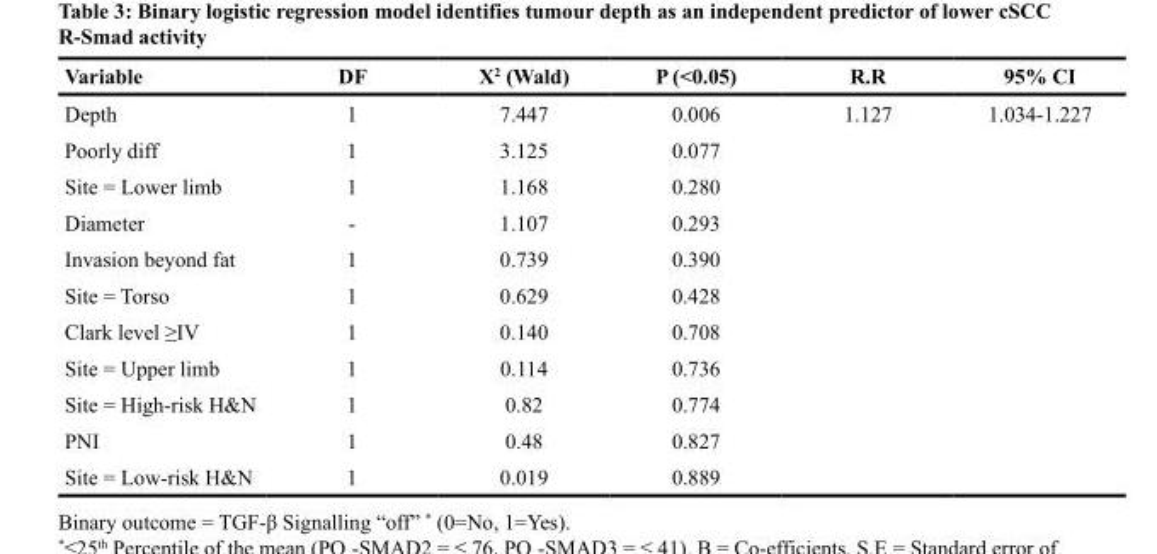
<table><thead><tr><td>Variable</td><td>DF</td><td>Χ<sup>2</sup> (Wald)</td><td>P (&lt;0.05)</td><td>R.R</td><td>95% CI</td></tr></thead><tbody><tr><td>Depth</td><td>1</td><td>7.447</td><td>0.006</td><td>1.127</td><td>1.034-1.227</td></tr><tr><td>Poorly diff</td><td>1</td><td>3.125</td><td>0.077</td><td></td><td></td></tr><tr><td>Site = Lower limb</td><td>1</td><td>1.168</td><td>0.280</td><td></td><td></td></tr><tr><td>Diameter</td><td>-</td><td>1.107</td><td>0.293</td><td></td><td></td></tr><tr><td>Invasion beyond fat</td><td>1</td><td>0.739</td><td>0.390</td><td></td><td></td></tr><tr><td>Site = Torso</td><td>1</td><td>0.629</td><td>0.428</td><td></td><td></td></tr><tr><td>Clark level ≥IV</td><td>1</td><td>0.140</td><td>0.708</td><td></td><td></td></tr><tr><td>Site = Upper limb</td><td>1</td><td>0.114</td><td>0.736</td><td></td><td></td></tr><tr><td>Site = High-risk H&amp;N</td><td>1</td><td>0.82</td><td>0.774</td><td></td><td></td></tr><tr><td>PNI</td><td>1</td><td>0.48</td><td>0.827</td><td></td><td></td></tr><tr><td>Site = Low-risk H&amp;N</td><td>1</td><td>0.019</td><td>0.889</td><td></td><td></td></tr></tbody></table>